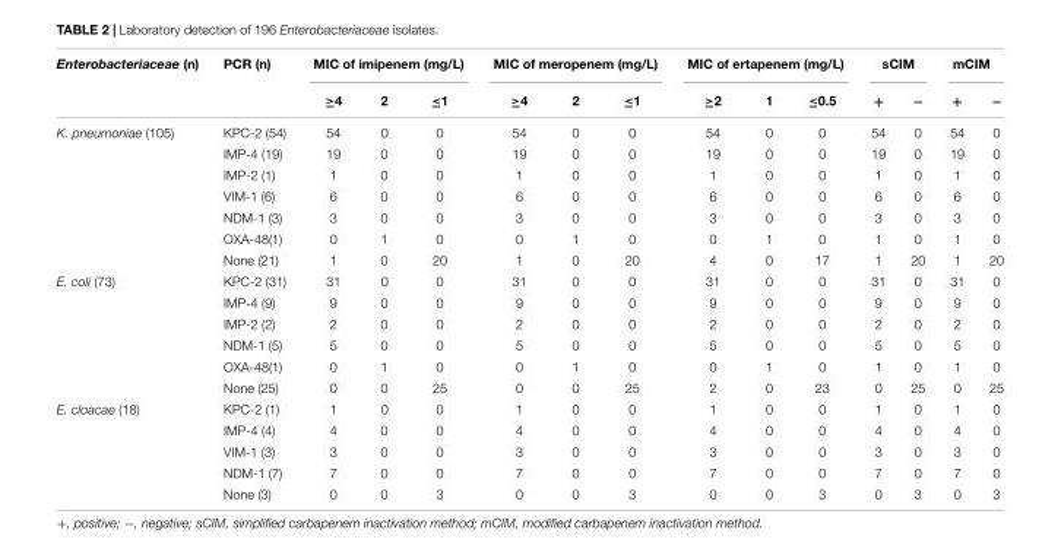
<table><thead><tr><td rowspan="2">Enterobacteriaceae (n)</td><td rowspan="2">PCR (n)</td><td colspan="3">MIC of imipenem (mg/L)</td><td colspan="3">MIC of meropenem (mg/L)</td><td colspan="3">MIC of ertapenem (mg/L)</td><td colspan="2">sCIM</td><td colspan="2">mCIM</td></tr><tr><td>≥4</td><td>2</td><td>≤1</td><td>≥4</td><td>2</td><td>≤1</td><td>≥2</td><td>1</td><td>≤0.5</td><td>+</td><td>−</td><td>+</td><td>−</td></tr></thead><tbody><tr><td rowspan="7">K. pneumoniae (105)</td><td>KPC-2 (54)</td><td>54</td><td>0</td><td>0</td><td>54</td><td>0</td><td>0</td><td>54</td><td>0</td><td>0</td><td>54</td><td>0</td><td>54</td><td>0</td></tr><tr><td>IMP-4 (19)</td><td>19</td><td>0</td><td>0</td><td>19</td><td>0</td><td>0</td><td>19</td><td>0</td><td>0</td><td>19</td><td>0</td><td>19</td><td>0</td></tr><tr><td>IMP-2 (1)</td><td>1</td><td>0</td><td>0</td><td>1</td><td>0</td><td>0</td><td>1</td><td>0</td><td>0</td><td>1</td><td>0</td><td>1</td><td>0</td></tr><tr><td>VIM-1 (6)</td><td>6</td><td>0</td><td>0</td><td>6</td><td>0</td><td>0</td><td>6</td><td>0</td><td>0</td><td>6</td><td>0</td><td>6</td><td>0</td></tr><tr><td>NDM-1 (3)</td><td>3</td><td>0</td><td>0</td><td>3</td><td>0</td><td>0</td><td>3</td><td>0</td><td>0</td><td>3</td><td>0</td><td>3</td><td>0</td></tr><tr><td>OXA-48(1)</td><td>0</td><td>1</td><td>0</td><td>0</td><td>1</td><td>0</td><td>0</td><td>1</td><td>0</td><td>1</td><td>0</td><td>1</td><td>0</td></tr><tr><td>None (21)</td><td>1</td><td>0</td><td>20</td><td>1</td><td>0</td><td>20</td><td>4</td><td>0</td><td>17</td><td>1</td><td>20</td><td>1</td><td>20</td></tr><tr><td rowspan="6">E. coli (73)</td><td>KPC-2 (31)</td><td>31</td><td>0</td><td>0</td><td>31</td><td>0</td><td>0</td><td>31</td><td>0</td><td>0</td><td>31</td><td>0</td><td>31</td><td>0</td></tr><tr><td>IMP-4 (9)</td><td>9</td><td>0</td><td>0</td><td>9</td><td>0</td><td>0</td><td>9</td><td>0</td><td>0</td><td>9</td><td>0</td><td>9</td><td>0</td></tr><tr><td>IMP-2 (2)</td><td>2</td><td>0</td><td>0</td><td>2</td><td>0</td><td>0</td><td>2</td><td>0</td><td>0</td><td>2</td><td>0</td><td>2</td><td>0</td></tr><tr><td>NDM-1 (5)</td><td>5</td><td>0</td><td>0</td><td>5</td><td>0</td><td>0</td><td>5</td><td>0</td><td>0</td><td>5</td><td>0</td><td>5</td><td>0</td></tr><tr><td>OXA-48(1)</td><td>0</td><td>1</td><td>0</td><td>0</td><td>1</td><td>0</td><td>0</td><td>1</td><td>0</td><td>1</td><td>0</td><td>1</td><td>0</td></tr><tr><td>None (25)</td><td>0</td><td>0</td><td>25</td><td>0</td><td>0</td><td>25</td><td>2</td><td>0</td><td>23</td><td>0</td><td>25</td><td>0</td><td>25</td></tr><tr><td rowspan="5">E. cloacae (18)</td><td>KPC-2 (1)</td><td>1</td><td>0</td><td>0</td><td>1</td><td>0</td><td>0</td><td>1</td><td>0</td><td>0</td><td>1</td><td>0</td><td>1</td><td>0</td></tr><tr><td>IMP-4 (4)</td><td>4</td><td>0</td><td>0</td><td>4</td><td>0</td><td>0</td><td>4</td><td>0</td><td>0</td><td>4</td><td>0</td><td>4</td><td>0</td></tr><tr><td>VIM-1 (3)</td><td>3</td><td>0</td><td>0</td><td>3</td><td>0</td><td>0</td><td>3</td><td>0</td><td>0</td><td>3</td><td>0</td><td>3</td><td>0</td></tr><tr><td>NDM-1 (7)</td><td>7</td><td>0</td><td>0</td><td>7</td><td>0</td><td>0</td><td>7</td><td>0</td><td>0</td><td>7</td><td>0</td><td>7</td><td>0</td></tr><tr><td>None (3)</td><td>0</td><td>0</td><td>3</td><td>0</td><td>0</td><td>3</td><td>0</td><td>0</td><td>3</td><td>0</td><td>3</td><td>0</td><td>3</td></tr></tbody></table>